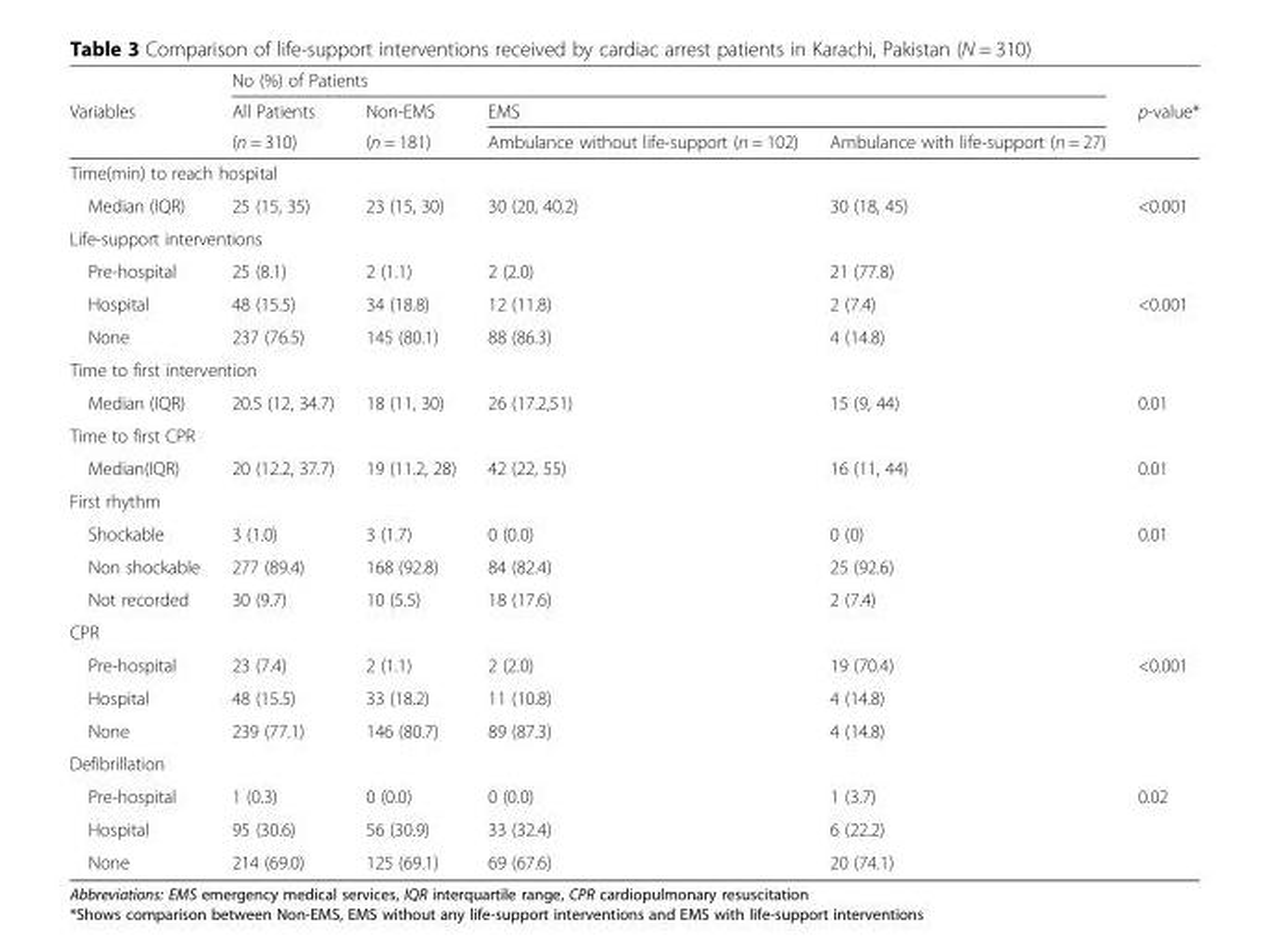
<table><thead><tr><td rowspan="3">Variables</td><td colspan="4">No (%) of Patients</td><td rowspan="3">p-value*</td></tr><tr><td rowspan="2">All Patients (n = 310)</td><td rowspan="2">Non-EMS (n = 181)</td><td colspan="2">EMS</td></tr><tr><td>Ambulance without life-support (n = 102)</td><td>Ambulance with life-support (n = 27)</td></tr></thead><tbody><tr><td colspan="6">Time(min) to reach hospital</td></tr><tr><td>Median (IQR)</td><td>25 (15, 35)</td><td>23 (15, 30)</td><td>30 (20, 40.2)</td><td>30 (18, 45)</td><td>&lt;0.001</td></tr><tr><td colspan="6">Life-support interventions</td></tr><tr><td>Pre-hospital</td><td>25 (8.1)</td><td>2 (1.1)</td><td>2 (2.0)</td><td>21 (77.8)</td><td></td></tr><tr><td>Hospital</td><td>48 (15.5)</td><td>34 (18.8)</td><td>12 (11.8)</td><td>2 (7.4)</td><td>&lt;0.001</td></tr><tr><td>None</td><td>237 (76.5)</td><td>145 (80.1)</td><td>88 (86.3)</td><td>4 (14.8)</td><td></td></tr><tr><td colspan="6">Time to first intervention</td></tr><tr><td>Median (IQR)</td><td>20.5 (12, 34.7)</td><td>18 (11, 30)</td><td>26 (17.2,51)</td><td>15 (9, 44)</td><td>0.01</td></tr><tr><td colspan="6">Time to first CPR</td></tr><tr><td>Median(IQR)</td><td>20 (12.2, 37.7)</td><td>19 (11.2, 28)</td><td>42 (22, 55)</td><td>16 (11, 44)</td><td>0.01</td></tr><tr><td colspan="6">First rhythm</td></tr><tr><td>Shockable</td><td>3 (1.0)</td><td>3 (1.7)</td><td>0 (0.0)</td><td>0 (0)</td><td>0.01</td></tr><tr><td>Non shockable</td><td>277 (89.4)</td><td>168 (92.8)</td><td>84 (82.4)</td><td>25 (92.6)</td><td></td></tr><tr><td>Not recorded</td><td>30 (9.7)</td><td>10 (5.5)</td><td>18 (17.6)</td><td>2 (7.4)</td><td></td></tr><tr><td colspan="6">CPR</td></tr><tr><td>Pre-hospital</td><td>23 (7.4)</td><td>2 (1.1)</td><td>2 (2.0)</td><td>19 (70.4)</td><td>&lt;0.001</td></tr><tr><td>Hospital</td><td>48 (15.5)</td><td>33 (18.2)</td><td>11 (10.8)</td><td>4 (14.8)</td><td></td></tr><tr><td>None</td><td>239 (77.1)</td><td>146 (80.7)</td><td>89 (87.3)</td><td>4 (14.8)</td><td></td></tr><tr><td colspan="6">Defibrillation</td></tr><tr><td>Pre-hospital</td><td>1 (0.3)</td><td>0 (0.0)</td><td>0 (0.0)</td><td>1 (3.7)</td><td>0.02</td></tr><tr><td>Hospital</td><td>95 (30.6)</td><td>56 (30.9)</td><td>33 (32.4)</td><td>6 (22.2)</td><td></td></tr><tr><td>None</td><td>214 (69.0)</td><td>125 (69.1)</td><td>69 (67.6)</td><td>20 (74.1)</td><td></td></tr></tbody></table>